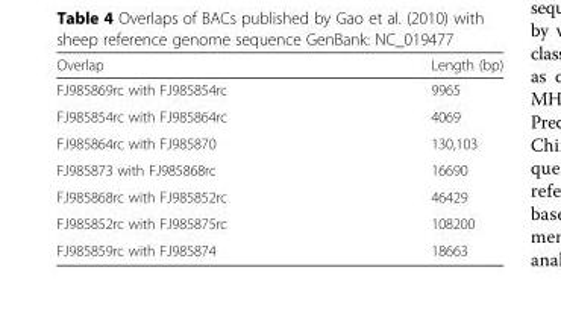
<table><thead><tr><td>Overlap</td><td>Length (bp)</td></tr></thead><tbody><tr><td>FJ985869rc with FJ985854rc</td><td>9965</td></tr><tr><td>FJ985854rc with FJ985864rc</td><td>4069</td></tr><tr><td>FJ985864rc with FJ985870</td><td>130,103</td></tr><tr><td>FJ985873 with FJ985868rc</td><td>16690</td></tr><tr><td>FJ985868rc with FJ985852rc</td><td>46429</td></tr><tr><td>FJ985852rc with FJ985875rc</td><td>108200</td></tr><tr><td>FJ985859rc with FJ985874</td><td>18663</td></tr></tbody></table>